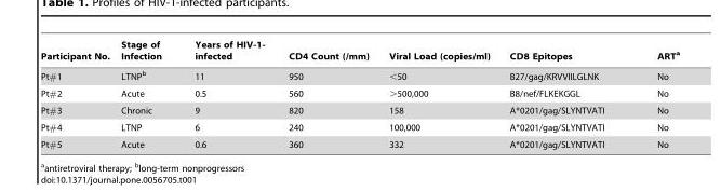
<table><thead><tr><td>Participant No.</td><td>Stage of Infection</td><td>Years of HIV-1- infected</td><td>CD4 Count (/mm)</td><td>Viral Load (copies/ml)</td><td>CD8 Epitopes</td><td>ART<sup>a</sup></td></tr></thead><tbody><tr><td>Pt#1</td><td>LTNP<sup>b</sup></td><td>11</td><td>950</td><td>&lt;50</td><td>B27/gag/KRVVIILGLNK</td><td>No</td></tr><tr><td>Pt#2</td><td>Acute</td><td>0.5</td><td>560</td><td>&gt;500,000</td><td>B8/nef/FLKEKGGL</td><td>No</td></tr><tr><td>Pt#3</td><td>Chronic</td><td>9</td><td>820</td><td>158</td><td>A*0201/gag/SLYNTVATI</td><td>No</td></tr><tr><td>Pt#4</td><td>LTNP</td><td>6</td><td>240</td><td>100,000</td><td>A*0201/gag/SLYNTVATI</td><td>No</td></tr><tr><td>Pt#5</td><td>Acute</td><td>0.6</td><td>360</td><td>332</td><td>A*0201/gag/SLYNTVATI</td><td>No</td></tr></tbody></table>